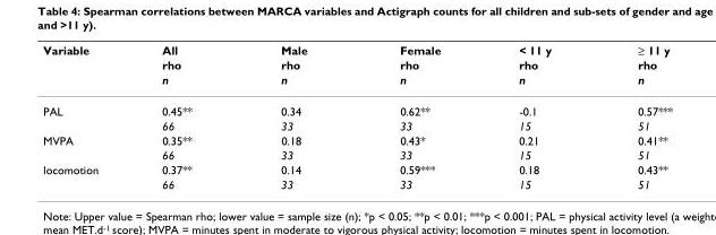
<table><thead><tr><td rowspan="3">Variable</td><td rowspan="3">All rho n</td><td rowspan="3">Male rho n</td><td rowspan="3">Female rho n</td><td rowspan="3">&lt; 11 y rho n</td><td rowspan="3">≥ 11 y rho n</td></tr><tr></tr><tr></tr></thead><tbody><tr><td rowspan="2">PAL</td><td>0.45**</td><td>0.34</td><td>0.62**</td><td>-0.1</td><td>0.57***</td></tr><tr><td>66</td><td>33</td><td>33</td><td>15</td><td>51</td></tr><tr><td rowspan="2">MVPA</td><td>0.35**</td><td>0.18</td><td>0.43*</td><td>0.21</td><td>0.41**</td></tr><tr><td>66</td><td>33</td><td>33</td><td>15</td><td>51</td></tr><tr><td rowspan="2">locomotion</td><td>0.37**</td><td>0.14</td><td>0.59***</td><td>0.18</td><td>0.43**</td></tr><tr><td>66</td><td>33</td><td>33</td><td>15</td><td>51</td></tr></tbody></table>